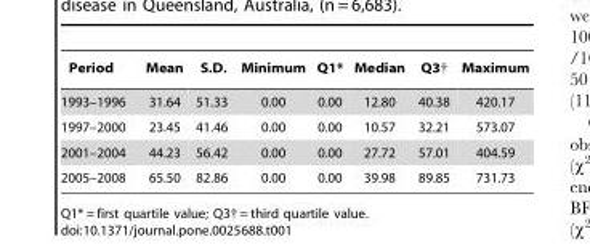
<table><thead><tr><td>Period</td><td>Mean</td><td>S.D.</td><td>Minimum</td><td>Q1*</td><td>Median</td><td>Q3†</td><td>Maximum</td></tr></thead><tbody><tr><td>1993–1996</td><td>31.64</td><td>51.33</td><td>0.00</td><td>0.00</td><td>12.80</td><td>40.38</td><td>420.17</td></tr><tr><td>1997–2000</td><td>23.45</td><td>41.46</td><td>0.00</td><td>0.00</td><td>10.57</td><td>32.21</td><td>573.07</td></tr><tr><td>2001–2004</td><td>44.23</td><td>56.42</td><td>0.00</td><td>0.00</td><td>27.72</td><td>57.01</td><td>404.59</td></tr><tr><td>2005–2008</td><td>65.50</td><td>82.86</td><td>0.00</td><td>0.00</td><td>39.98</td><td>89.85</td><td>731.73</td></tr></tbody></table>